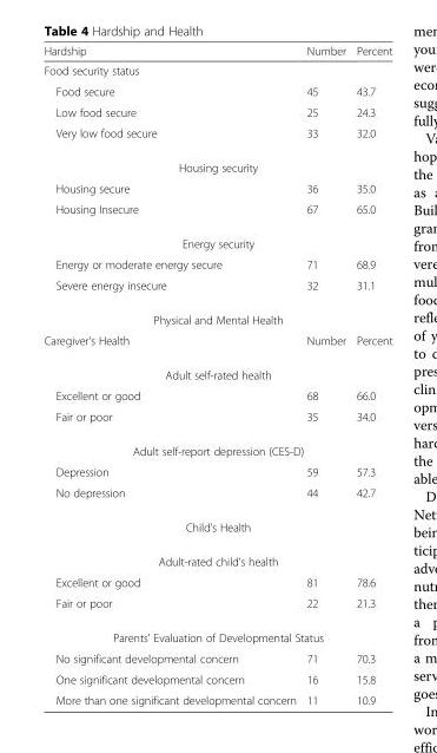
<table><thead><tr><td>Hardship</td><td>Number</td><td>Percent</td></tr></thead><tbody><tr><td colspan="3">Food security status</td></tr><tr><td>Food secure</td><td>45</td><td>43.7</td></tr><tr><td>Low food secure</td><td>25</td><td>24.3</td></tr><tr><td>Very low food secure</td><td>33</td><td>32.0</td></tr><tr><td colspan="3">Housing security</td></tr><tr><td>Housing secure</td><td>36</td><td>35.0</td></tr><tr><td>Housing Insecure</td><td>67</td><td>65.0</td></tr><tr><td colspan="3">Energy security</td></tr><tr><td>Energy or moderate energy secure</td><td>71</td><td>68.9</td></tr><tr><td>Severe energy insecure</td><td>32</td><td>31.1</td></tr><tr><td colspan="3">Physical and Mental Health</td></tr><tr><td>Caregiver’s Health</td><td>Number</td><td>Percent</td></tr><tr><td colspan="3">Adult self-rated health</td></tr><tr><td>Excellent or good</td><td>68</td><td>66.0</td></tr><tr><td>Fair or poor</td><td>35</td><td>34.0</td></tr><tr><td colspan="3">Adult self-report depression (CES-D)</td></tr><tr><td>Depression</td><td>59</td><td>57.3</td></tr><tr><td>No depression</td><td>44</td><td>42.7</td></tr><tr><td colspan="3">Child’s Health</td></tr><tr><td colspan="3">Adult-rated child’s health</td></tr><tr><td>Excellent or good</td><td>81</td><td>78.6</td></tr><tr><td>Fair or poor</td><td>22</td><td>21.3</td></tr><tr><td colspan="3">Parents&#x27; Evaluation of Developmental Status</td></tr><tr><td>No significant developmental concern</td><td>71</td><td>70.3</td></tr><tr><td>One significant developmental concern</td><td>16</td><td>15.8</td></tr><tr><td>More than one significant developmental concern</td><td>11</td><td>10.9</td></tr></tbody></table>